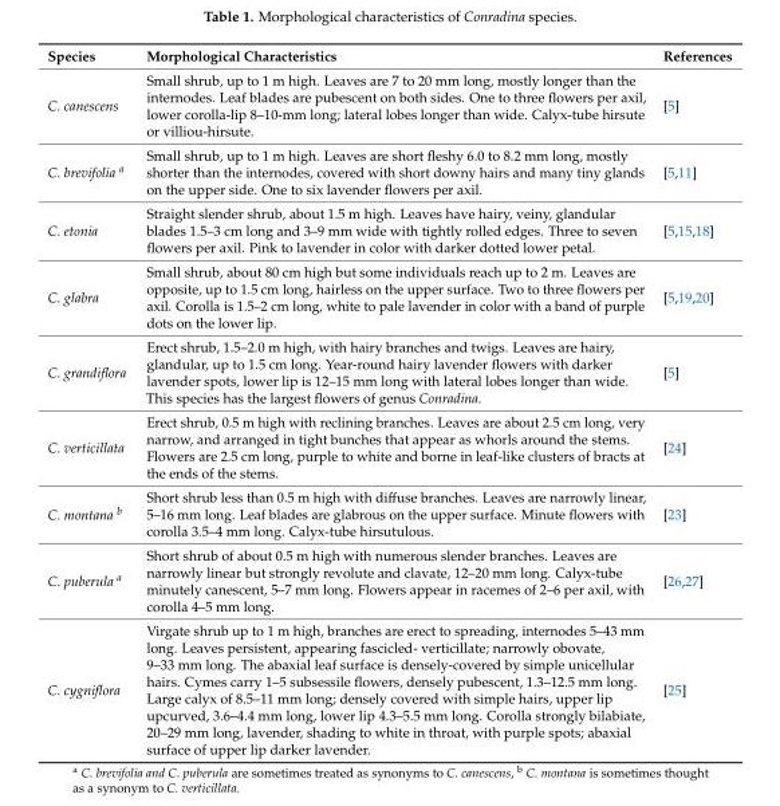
<table><thead><tr><td>Species</td><td>Morphological Characteristics</td><td>References</td></tr></thead><tbody><tr><td>C. canescens</td><td>Small shrub, up to 1 m high. Leaves are 7 to 20 mm long, mostly longer than the internodes. Leaf blades are pubescent on both sides. One to three flowers per axil, lower corolla-lip 8–10-mm long; lateral lobes longer than wide. Calyx-tube hirsute or villiou-hirsute.</td><td>[5]</td></tr><tr><td>C. brevifolia <sup>a</sup></td><td>Small shrub, up to 1 m high. Leaves are short fleshy 6.0 to 8.2 mm long, mostly shorter than the internodes, covered with short downy hairs and many tiny glands on the upper side. One to six lavender flowers per axil.</td><td>[5,11]</td></tr><tr><td>C. etonia</td><td>Straight slender shrub, about 1.5 m high. Leaves have hairy, veiny, glandular blades 1.5–3 cm long and 3–9 mm wide with tightly rolled edges. Three to seven flowers per axil. Pink to lavender in color with darker dotted lower petal.</td><td>[5,15,18]</td></tr><tr><td>C. glabra</td><td>Small shrub, about 80 cm high but some individuals reach up to 2 m. Leaves are opposite, up to 1.5 cm long, hairless on the upper surface. Two to three flowers per axil. Corolla is 1.5–2 cm long, white to pale lavender in color with a band of purple dots on the lower lip.</td><td>[5,19,20]</td></tr><tr><td>C. grandiflora</td><td>Erect shrub, 1.5–2.0 m high, with hairy branches and twigs. Leaves are hairy, glandular, up to 1.5 cm long. Year-round hairy lavender flowers with darker lavender spots, lower lip is 12–15 mm long with lateral lobes longer than wide. This species has the largest flowers of genus Conradina.</td><td>[5]</td></tr><tr><td>C. verticillata</td><td>Erect shrub, 0.5 m high with reclining branches. Leaves are about 2.5 cm long, very narrow, and arranged in tight bunches that appear as whorls around the stems. Flowers are 2.5 cm long, purple to white and borne in leaf-like clusters of bracts at the ends of the stems.</td><td>[24]</td></tr><tr><td>C. montana <sup>b</sup></td><td>Short shrub less than 0.5 m high with diffuse branches. Leaves are narrowly linear, 5–16 mm long. Leaf blades are glabrous on the upper surface. Minute flowers with corolla 3.5–4 mm long. Calyx-tube hirsutulous.</td><td>[23]</td></tr><tr><td>C. puberula <sup>a</sup></td><td>Short shrub of about 0.5 m high with numerous slender branches. Leaves are narrowly linear but strongly revolute and clavate, 12–20 mm long. Calyx-tube minutely canescent, 5–7 mm long. Flowers appear in racemes of 2–6 per axil, with corolla 4–5 mm long.</td><td>[26,27]</td></tr><tr><td>C. cygniflora</td><td>Virgate shrub up to 1 m high, branches are erect to spreading, internodes 5–43 mm long. Leaves persistent, appearing fascicled- verticillate; narrowly obovate, 9–33 mm long. The abaxial leaf surface is densely-covered by simple unicellular hairs. Cymes carry 1–5 subsessile flowers, densely pubescent, 1.3–12.5 mm long. Large calyx of 8.5–11 mm long; densely covered with simple hairs, upper lip upcurved, 3.6–4.4 mm long, lower lip 4.3–5.5 mm long. Corolla strongly bilabiate, 20–29 mm long, lavender, shading to white in throat, with purple spots; abaxial surface of upper lip darker lavender.</td><td>[25]</td></tr></tbody></table>